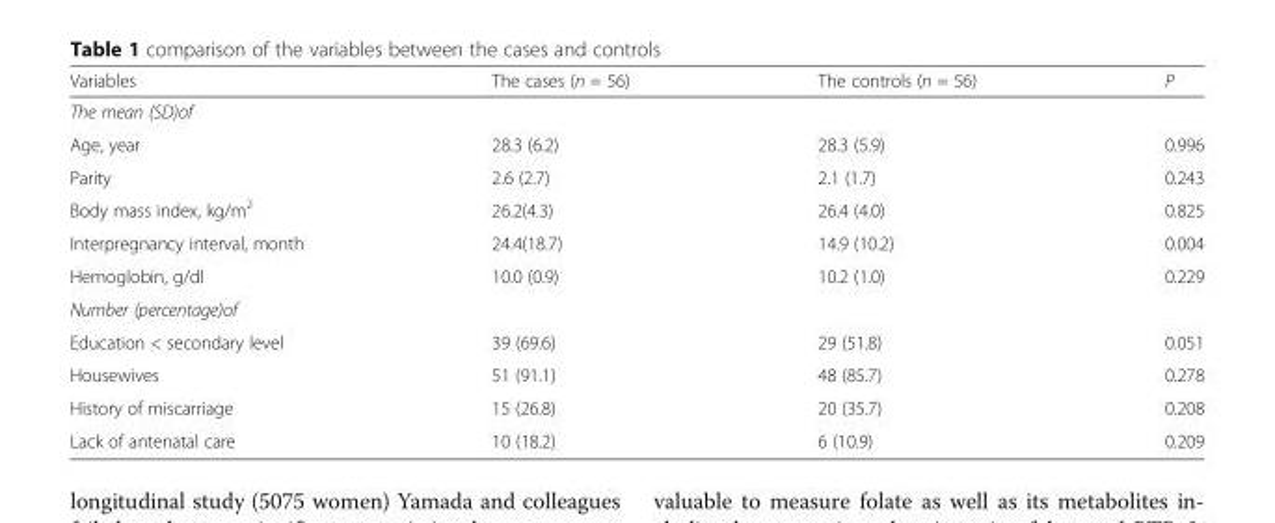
<table><thead><tr><td>Variables</td><td>The cases (n = 56)</td><td>The controls (n = 56)</td><td>P</td></tr></thead><tbody><tr><td colspan="4">The mean (SD)of</td></tr><tr><td>Age, year</td><td>28.3 (6.2)</td><td>28.3 (5.9)</td><td>0.996</td></tr><tr><td>Parity</td><td>2.6 (2.7)</td><td>2.1 (1.7)</td><td>0.243</td></tr><tr><td>Body mass index, kg/m<sup>2</sup></td><td>26.2(4.3)</td><td>26.4 (4.0)</td><td>0.825</td></tr><tr><td>Interpregnancy interval, month</td><td>24.4(18.7)</td><td>14.9 (10.2)</td><td>0.004</td></tr><tr><td>Hemoglobin, g/dl</td><td>10.0 (0.9)</td><td>10.2 (1.0)</td><td>0.229</td></tr><tr><td colspan="4">Number (percentage)of</td></tr><tr><td>Education &lt; secondary level</td><td>39 (69.6)</td><td>29 (51.8)</td><td>0.051</td></tr><tr><td>Housewives</td><td>51 (91.1)</td><td>48 (85.7)</td><td>0.278</td></tr><tr><td>History of miscarriage</td><td>15 (26.8)</td><td>20 (35.7)</td><td>0.208</td></tr><tr><td>Lack of antenatal care</td><td>10 (18.2)</td><td>6 (10.9)</td><td>0.209</td></tr></tbody></table>